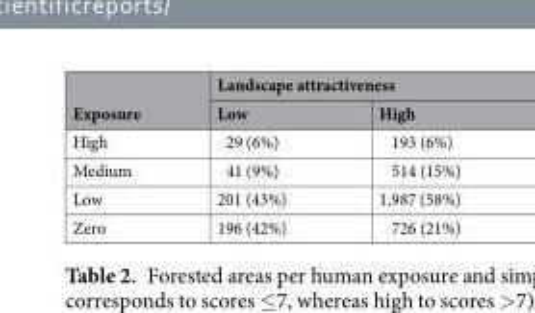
<table><thead><tr><td rowspan="2">Exposure</td><td colspan="2">Landscape attractiveness</td></tr><tr><td>Low</td><td>High</td></tr></thead><tbody><tr><td>High</td><td>29 (6%)</td><td>193 (6%)</td></tr><tr><td>Medium</td><td>41 (9%)</td><td>514 (15%)</td></tr><tr><td>Low</td><td>201 (43%)</td><td>1,987 (58%)</td></tr><tr><td>Zero</td><td>196 (42%)</td><td>726 (21%)</td></tr></tbody></table>